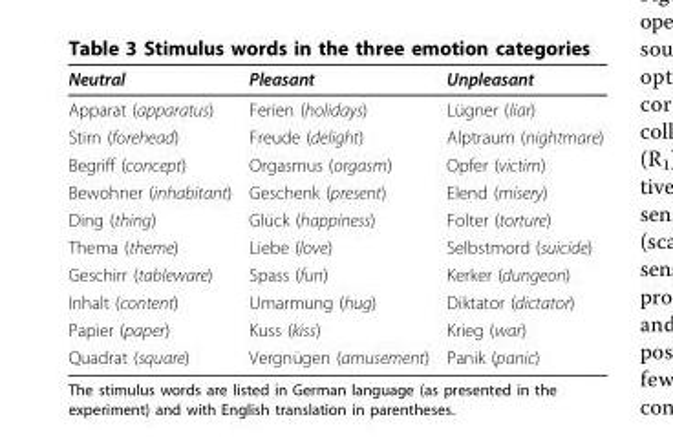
<table><thead><tr><td>Neutral</td><td>Pleasant</td><td>Unpleasant</td></tr></thead><tbody><tr><td>Apparat (apparatus)</td><td>Ferien (holidays)</td><td>Lügner (liar)</td></tr><tr><td>Stirn (forehead)</td><td>Freude (delight)</td><td>Alptraum (nightmare)</td></tr><tr><td>Begriff (concept)</td><td>Orgasmus (orgasm)</td><td>Opfer (victim)</td></tr><tr><td>Bewohner (inhabitant)</td><td>Geschenk (present)</td><td>Elend (misery)</td></tr><tr><td>Ding (thing)</td><td>Glück (happiness)</td><td>Folter (torture)</td></tr><tr><td>Thema (theme)</td><td>Liebe (love)</td><td>Selbstmord (suicide)</td></tr><tr><td>Geschirr (tableware)</td><td>Spass (fun)</td><td>Kerker (dungeon)</td></tr><tr><td>Inhalt (content)</td><td>Umarmung (hug)</td><td>Diktator (dictator)</td></tr><tr><td>Papier (paper)</td><td>Kuss (kiss)</td><td>Krieg (war)</td></tr><tr><td>Quadrat (square)</td><td>Vergnügen (amusement)</td><td>Panik (panic)</td></tr></tbody></table>